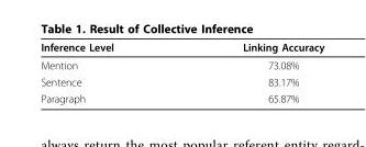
<table><thead><tr><td>Inference Level</td><td>Linking Accuracy</td></tr></thead><tbody><tr><td>Mention</td><td>73.08%</td></tr><tr><td>Sentence</td><td>83.17%</td></tr><tr><td>Paragraph</td><td>65.87%</td></tr></tbody></table>